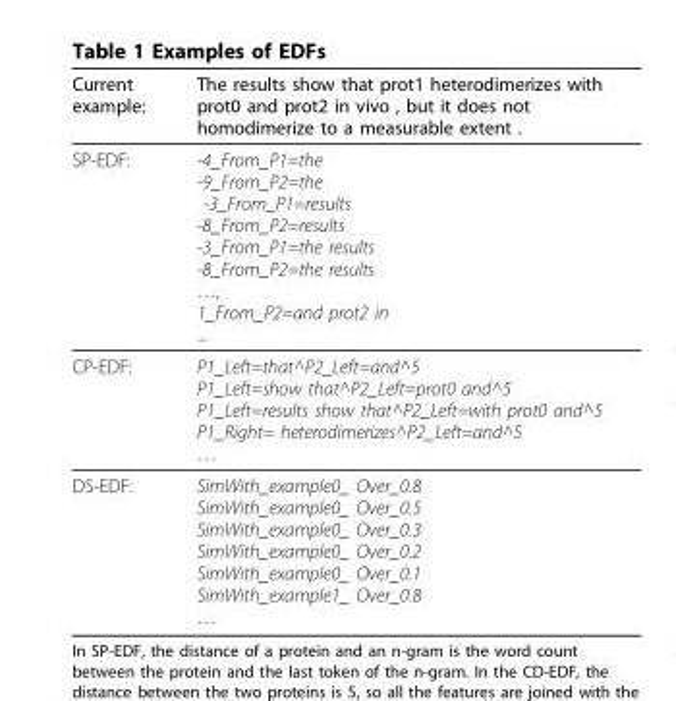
<table><thead><tr><td>Current example:</td><td>The results show that prot1 heterodimerizes with prot0 and prot2 in vivo , but it does not homodimerize to a measurable extent .</td></tr></thead><tbody><tr><td>SP-EDF:</td><td>-4_From_P1=the -9_From_P2=the -3_From_P1=results -8_From_P2=results -3_From_P1=the results -8_From_P2=the results …, 1_From_P2=and prot2 in ...</td></tr><tr><td>CP-EDF:</td><td>P1_Left=that^P2_Left=and^5 P1_Left=show that^P2_Left=prot0 and^5 P1_Left=results show that^P2_Left=with prot0 and^5 P1_Right= heterodimerizes^P2_Left=and^5 …</td></tr><tr><td>DS-EDF:</td><td>SimWith_example0_ Over_0.8 SimWith_example0_ Over_0.5 SimWith_example0_ Over_0.3 SimWith_example0_ Over_0.2 SimWith_example0_ Over_0.1 SimWith_example1_ Over_0.8 …</td></tr></tbody></table>